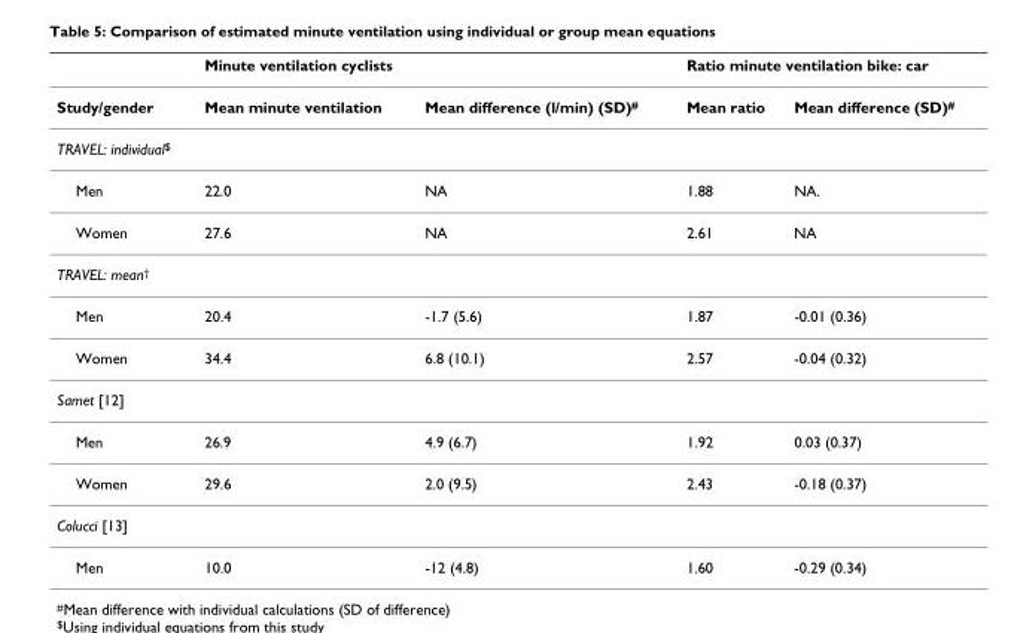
<table><thead><tr><td rowspan="2">Study/gender</td><td colspan="2">Minute ventilation cyclists</td><td colspan="2">Ratio minute ventilation bike: car</td></tr><tr><td>Mean minute ventilation</td><td>Mean difference (l/min) (SD)<sup>#</sup></td><td>Mean ratio</td><td>Mean difference (SD)<sup>#</sup></td></tr></thead><tbody><tr><td colspan="5">TRAVEL: individual<sup>$</sup></td></tr><tr><td>Men</td><td>22.0</td><td>NA</td><td>1.88</td><td>NA.</td></tr><tr><td>Women</td><td>27.6</td><td>NA</td><td>2.61</td><td>NA</td></tr><tr><td colspan="5">TRAVEL: mean<sup>†</sup></td></tr><tr><td>Men</td><td>20.4</td><td>-1.7 (5.6)</td><td>1.87</td><td>-0.01 (0.36)</td></tr><tr><td>Women</td><td>34.4</td><td>6.8 (10.1)</td><td>2.57</td><td>-0.04 (0.32)</td></tr><tr><td colspan="5">Samet [12]</td></tr><tr><td>Men</td><td>26.9</td><td>4.9 (6.7)</td><td>1.92</td><td>0.03 (0.37)</td></tr><tr><td>Women</td><td>29.6</td><td>2.0 (9.5)</td><td>2.43</td><td>-0.18 (0.37)</td></tr><tr><td colspan="5">Colucci [13]</td></tr><tr><td>Men</td><td>10.0</td><td>-12 (4.8)</td><td>1.60</td><td>-0.29 (0.34)</td></tr></tbody></table>